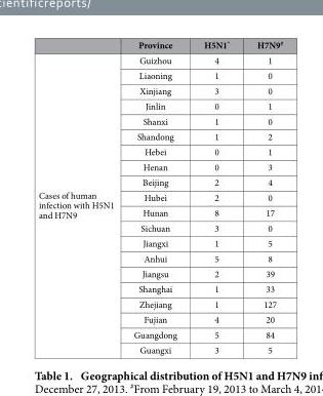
<table><thead><tr><td></td><td>Province</td><td>H5N1*</td><td>H7N9#</td></tr></thead><tbody><tr><td rowspan="20">Cases of human infection with H5N1 and H7N9</td><td>Guizhou</td><td>4</td><td>1</td></tr><tr><td>Liaoning</td><td>1</td><td>0</td></tr><tr><td>Xinjiang</td><td>3</td><td>0</td></tr><tr><td>Jinlin</td><td>0</td><td>1</td></tr><tr><td>Shanxi</td><td>1</td><td>0</td></tr><tr><td>Shandong</td><td>1</td><td>2</td></tr><tr><td>Hebei</td><td>0</td><td>1</td></tr><tr><td>Henan</td><td>0</td><td>3</td></tr><tr><td>Beijing</td><td>2</td><td>4</td></tr><tr><td>Hubei</td><td>2</td><td>0</td></tr><tr><td>Hunan</td><td>8</td><td>17</td></tr><tr><td>Sichuan</td><td>3</td><td>0</td></tr><tr><td>Jiangxi</td><td>1</td><td>5</td></tr><tr><td>Anhui</td><td>5</td><td>8</td></tr><tr><td>Jiangsu</td><td>2</td><td>39</td></tr><tr><td>Shanghai</td><td>1</td><td>33</td></tr><tr><td>Zhejiang</td><td>1</td><td>127</td></tr><tr><td>Fujian</td><td>4</td><td>20</td></tr><tr><td>Guangdong</td><td>5</td><td>84</td></tr><tr><td>Guangxi</td><td>3</td><td>5</td></tr></tbody></table>